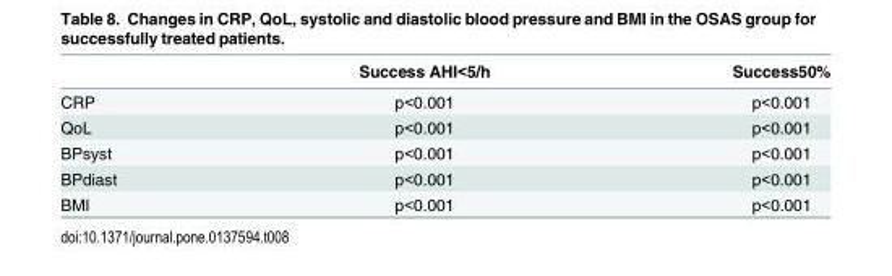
<table><thead><tr><td></td><td>Success AHI&lt;5/h</td><td>Success50%</td></tr></thead><tbody><tr><td>CRP</td><td>p&lt;0.001</td><td>p&lt;0.001</td></tr><tr><td>QoL</td><td>p&lt;0.001</td><td>p&lt;0.001</td></tr><tr><td>BPsyst</td><td>p&lt;0.001</td><td>p&lt;0.001</td></tr><tr><td>BPdiast</td><td>p&lt;0.001</td><td>p&lt;0.001</td></tr><tr><td>BMI</td><td>p&lt;0.001</td><td>p&lt;0.001</td></tr></tbody></table>